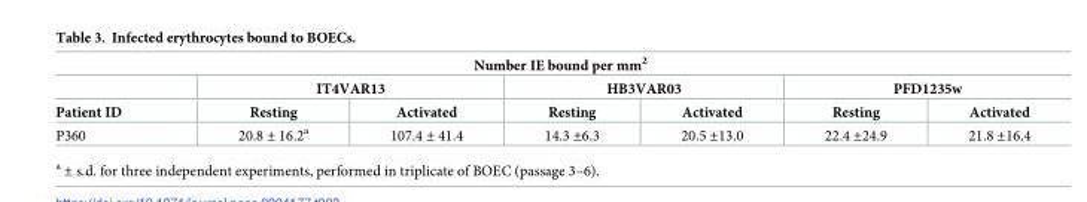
<table><thead><tr><td colspan="7">Number IE bound per mm<sup>2</sup></td></tr><tr><td rowspan="2">Patient ID</td><td colspan="2">IT4VAR13</td><td colspan="2">HB3VAR03</td><td colspan="2">PFD1235w</td></tr><tr><td>Resting</td><td>Activated</td><td>Resting</td><td>Activated</td><td>Resting</td><td>Activated</td></tr></thead><tbody><tr><td>P360</td><td>20.8 ± 16.2<sup>a</sup></td><td>107.4 ± 41.4</td><td>14.3 ±6.3</td><td>20.5 ±13.0</td><td>22.4 ±24.9</td><td>21.8 ±16.4</td></tr></tbody></table>